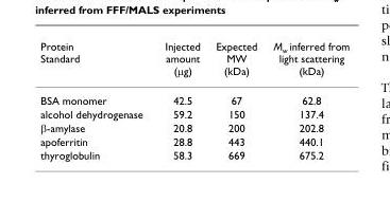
<table><thead><tr><td>Protein Standard</td><td>Injected amount (μg)</td><td>Expected MW (kDa)</td><td>M<sub>w</sub> inferred from light scattering (kDa)</td></tr></thead><tbody><tr><td>BSA monomer</td><td>42.5</td><td>67</td><td>62.8</td></tr><tr><td>alcohol dehydrogenase</td><td>59.2</td><td>150</td><td>137.4</td></tr><tr><td>β-amylase</td><td>20.8</td><td>200</td><td>202.8</td></tr><tr><td>apoferritin</td><td>28.8</td><td>443</td><td>440.1</td></tr><tr><td>thyroglobulin</td><td>58.3</td><td>669</td><td>675.2</td></tr></tbody></table>